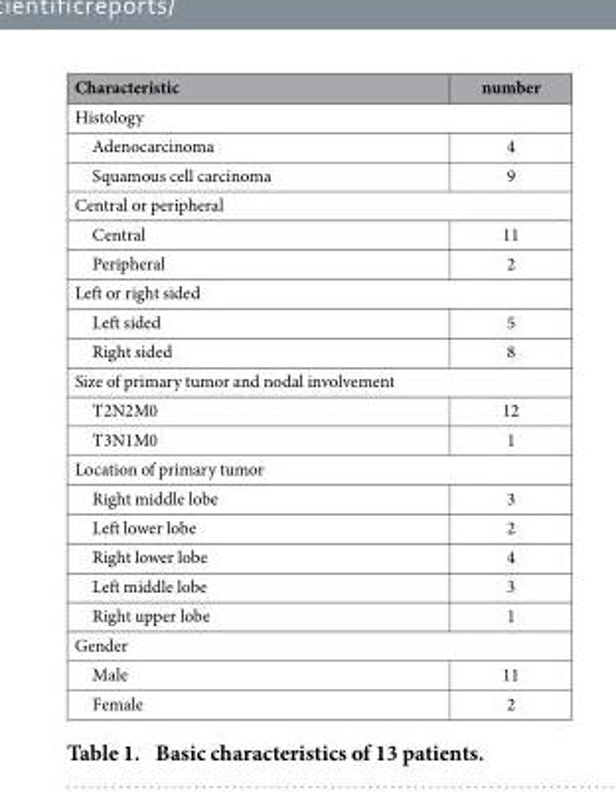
<table><thead><tr><td>Characteristic</td><td>number</td></tr></thead><tbody><tr><td colspan="2">Histology</td></tr><tr><td>Adenocarcinoma</td><td>4</td></tr><tr><td>Squamous cell carcinoma</td><td>9</td></tr><tr><td colspan="2">Central or peripheral</td></tr><tr><td>Central</td><td>11</td></tr><tr><td>Peripheral</td><td>2</td></tr><tr><td colspan="2">Left or right sided</td></tr><tr><td>Left sided</td><td>5</td></tr><tr><td>Right sided</td><td>8</td></tr><tr><td colspan="2">Size of primary tumor and nodal involvement</td></tr><tr><td>T2N2M0</td><td>12</td></tr><tr><td>T3N1M0</td><td>1</td></tr><tr><td colspan="2">Location of primary tumor</td></tr><tr><td>Right middle lobe</td><td>3</td></tr><tr><td>Left lower lobe</td><td>2</td></tr><tr><td>Right lower lobe</td><td>4</td></tr><tr><td>Left middle lobe</td><td>3</td></tr><tr><td>Right upper lobe</td><td>1</td></tr><tr><td colspan="2">Gender</td></tr><tr><td>Male</td><td>11</td></tr><tr><td>Female</td><td>2</td></tr></tbody></table>